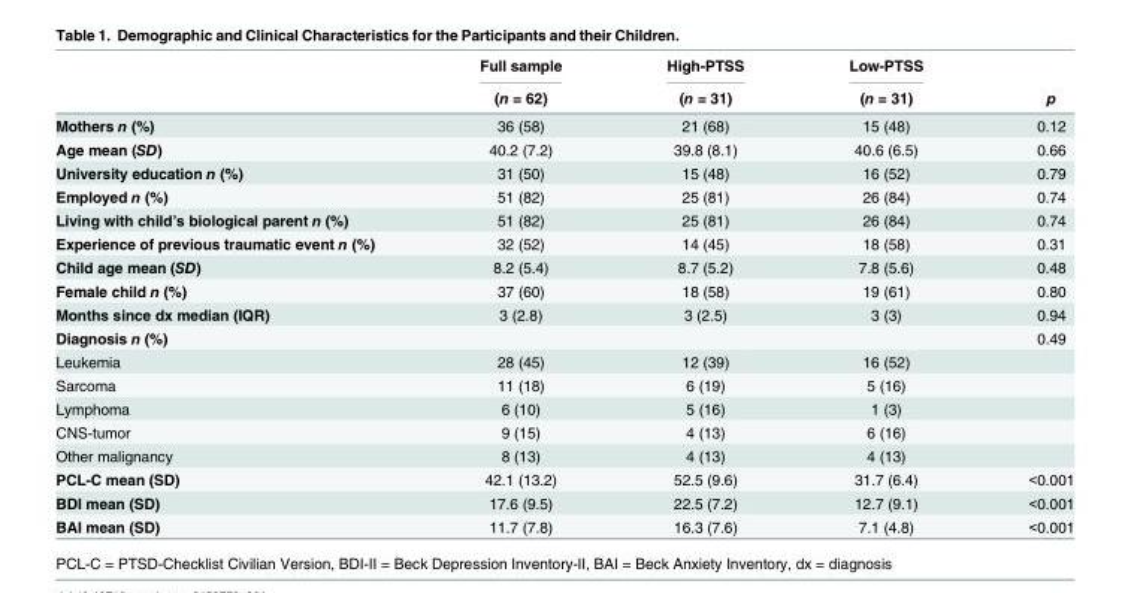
<table><thead><tr><td rowspan="2"></td><td rowspan="2">Full sample (n = 62)</td><td rowspan="2">High-PTSS (n = 31)</td><td rowspan="2">Low-PTSS (n = 31)</td><td rowspan="2">p</td></tr><tr></tr></thead><tbody><tr><td>Mothers n (%)</td><td>36 (58)</td><td>21 (68)</td><td>15 (48)</td><td>0.12</td></tr><tr><td>Age mean (SD)</td><td>40.2 (7.2)</td><td>39.8 (8.1)</td><td>40.6 (6.5)</td><td>0.66</td></tr><tr><td>University education n (%)</td><td>31 (50)</td><td>15 (48)</td><td>16 (52)</td><td>0.79</td></tr><tr><td>Employed n (%)</td><td>51 (82)</td><td>25 (81)</td><td>26 (84)</td><td>0.74</td></tr><tr><td>Living with child’s biological parent n (%)</td><td>51 (82)</td><td>25 (81)</td><td>26 (84)</td><td>0.74</td></tr><tr><td>Experience of previous traumatic event n (%)</td><td>32 (52)</td><td>14 (45)</td><td>18 (58)</td><td>0.31</td></tr><tr><td>Child age mean (SD)</td><td>8.2 (5.4)</td><td>8.7 (5.2)</td><td>7.8 (5.6)</td><td>0.48</td></tr><tr><td>Female child n (%)</td><td>37 (60)</td><td>18 (58)</td><td>19 (61)</td><td>0.80</td></tr><tr><td>Months since dx median (IQR)</td><td>3 (2.8)</td><td>3 (2.5)</td><td>3 (3)</td><td>0.94</td></tr><tr><td>Diagnosis n (%)</td><td></td><td></td><td></td><td>0.49</td></tr><tr><td>Leukemia</td><td>28 (45)</td><td>12 (39)</td><td>16 (52)</td><td></td></tr><tr><td>Sarcoma</td><td>11 (18)</td><td>6 (19)</td><td>5 (16)</td><td></td></tr><tr><td>Lymphoma</td><td>6 (10)</td><td>5 (16)</td><td>1 (3)</td><td></td></tr><tr><td>CNS-tumor</td><td>9 (15)</td><td>4 (13)</td><td>6 (16)</td><td></td></tr><tr><td>Other malignancy</td><td>8 (13)</td><td>4 (13)</td><td>4 (13)</td><td></td></tr><tr><td>PCL-C mean (SD)</td><td>42.1 (13.2)</td><td>52.5 (9.6)</td><td>31.7 (6.4)</td><td>&lt;0.001</td></tr><tr><td>BDI mean (SD)</td><td>17.6 (9.5)</td><td>22.5 (7.2)</td><td>12.7 (9.1)</td><td>&lt;0.001</td></tr><tr><td>BAI mean (SD)</td><td>11.7 (7.8)</td><td>16.3 (7.6)</td><td>7.1 (4.8)</td><td>&lt;0.001</td></tr></tbody></table>